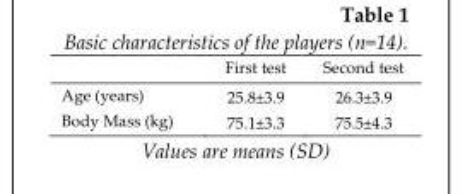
<table><thead><tr><td></td><td>First test</td><td>Second test</td></tr></thead><tbody><tr><td>Age (years)</td><td>25.8±3.9</td><td>26.3±3.9</td></tr><tr><td>Body Mass (kg)</td><td>75.1±3.3</td><td>75.5±4.3</td></tr></tbody></table>